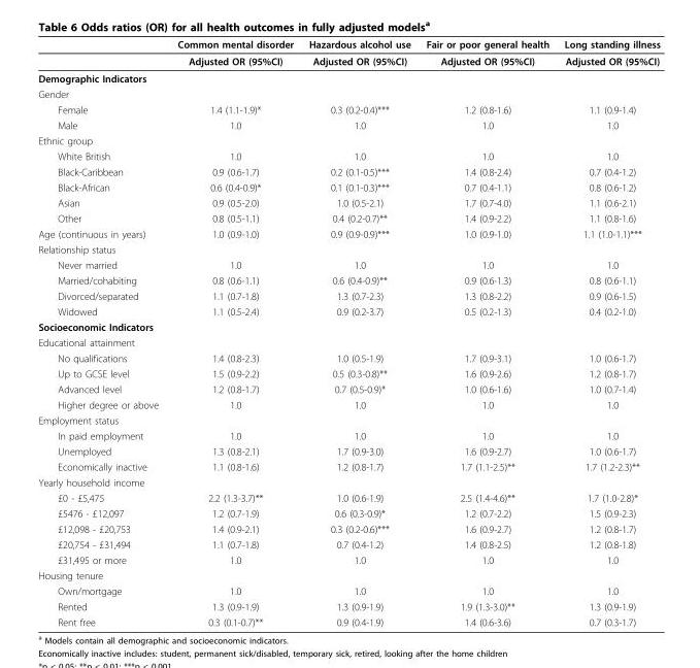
<table><thead><tr><td></td><td>Common mental disorder</td><td>Hazardous alcohol use</td><td>Fair or poor general health</td><td>Long standing illness</td></tr></thead><tbody><tr><td></td><td>Adjusted OR (95%CI)</td><td>Adjusted OR (95%CI)</td><td>Adjusted OR (95%CI)</td><td>Adjusted OR (95%CI)</td></tr><tr><td colspan="5">Demographic Indicators</td></tr><tr><td colspan="5">Gender</td></tr><tr><td>Female</td><td>1.4 (1.1-1.9)*</td><td>0.3 (0.2-0.4)***</td><td>1.2 (0.8-1.6)</td><td>1.1 (0.9-1.4)</td></tr><tr><td>Male</td><td>1.0</td><td>1.0</td><td>1.0</td><td>1.0</td></tr><tr><td colspan="5">Ethnic group</td></tr><tr><td>White British</td><td>1.0</td><td>1.0</td><td>1.0</td><td>1.0</td></tr><tr><td>Black-Caribbean</td><td>0.9 (0.6-1.7)</td><td>0.2 (0.1-0.5)***</td><td>1.4 (0.8-2.4)</td><td>0.7 (0.4-1.2)</td></tr><tr><td>Black-African</td><td>0.6 (0.4-0.9)*</td><td>0.1 (0.1-0.3)***</td><td>0.7 (0.4-1.1)</td><td>0.8 (0.6-1.2)</td></tr><tr><td>Asian</td><td>0.9 (0.5-2.0)</td><td>1.0 (0.5-2.1)</td><td>1.7 (0.7-4.0)</td><td>1.1 (0.6-2.1)</td></tr><tr><td>Other</td><td>0.8 (0.5-1.1)</td><td>0.4 (0.2-0.7)**</td><td>1.4 (0.9-2.2)</td><td>1.1 (0.8-1.6)</td></tr><tr><td>Age (continuous in years)</td><td>1.0 (0.9-1.0)</td><td>0.9 (0.9-0.9)***</td><td>1.0 (0.9-1.0)</td><td>1.1 (1.0-1.1)***</td></tr><tr><td colspan="5">Relationship status</td></tr><tr><td>Never married</td><td>1.0</td><td>1.0</td><td>1.0</td><td>1.0</td></tr><tr><td>Married/cohabiting</td><td>0.8 (0.6-1.1)</td><td>0.6 (0.4-0.9)**</td><td>0.9 (0.6-1.3)</td><td>0.8 (0.6-1.1)</td></tr><tr><td>Divorced/separated</td><td>1.1 (0.7-1.8)</td><td>1.3 (0.7-2.3)</td><td>1.3 (0.8-2.2)</td><td>0.9 (0.6-1.5)</td></tr><tr><td>Widowed</td><td>1.1 (0.5-2.4)</td><td>0.9 (0.2-3.7)</td><td>0.5 (0.2-1.3)</td><td>0.4 (0.2-1.0)</td></tr><tr><td colspan="5">Socioeconomic Indicators</td></tr><tr><td colspan="5">Educational attainment</td></tr><tr><td>No qualifications</td><td>1.4 (0.8-2.3)</td><td>1.0 (0.5-1.9)</td><td>1.7 (0.9-3.1)</td><td>1.0 (0.6-1.7)</td></tr><tr><td>Up to GCSE level</td><td>1.5 (0.9-2.2)</td><td>0.5 (0.3-0.8)**</td><td>1.6 (0.9-2.6)</td><td>1.2 (0.8-1.7)</td></tr><tr><td>Advanced level</td><td>1.2 (0.8-1.7)</td><td>0.7 (0.5-0.9)*</td><td>1.0 (0.6-1.6)</td><td>1.0 (0.7-1.4)</td></tr><tr><td>Higher degree or above</td><td>1.0</td><td>1.0</td><td>1.0</td><td>1.0</td></tr><tr><td colspan="5">Employment status</td></tr><tr><td>In paid employment</td><td>1.0</td><td>1.0</td><td>1.0</td><td>1.0</td></tr><tr><td>Unemployed</td><td>1.3 (0.8-2.1)</td><td>1.7 (0.9-3.0)</td><td>1.6 (0.9-2.7)</td><td>1.0 (0.6-1.7)</td></tr><tr><td>Economically inactive</td><td>1.1 (0.8-1.6)</td><td>1.2 (0.8-1.7)</td><td>1.7 (1.1-2.5)**</td><td>1.7 (1.2-2.3)**</td></tr><tr><td colspan="5">Yearly household income</td></tr><tr><td>£0 - £5,475</td><td>2.2 (1.3-3.7)**</td><td>1.0 (0.6-1.9)</td><td>2.5 (1.4-4.6)**</td><td>1.7 (1.0-2.8)*</td></tr><tr><td>£5476 - £12,097</td><td>1.2 (0.7-1.9)</td><td>0.6 (0.3-0.9)*</td><td>1.2 (0.7-2.2)</td><td>1.5 (0.9-2.3)</td></tr><tr><td>£12,098 - £20,753</td><td>1.4 (0.9-2.1)</td><td>0.3 (0.2-0.6)***</td><td>1.6 (0.9-2.7)</td><td>1.2 (0.8-1.7)</td></tr><tr><td>£20,754 - £31,494</td><td>1.1 (0.7-1.8)</td><td>0.7 (0.4-1.2)</td><td>1.4 (0.8-2.5)</td><td>1.2 (0.8-1.8)</td></tr><tr><td>£31,495 or more</td><td>1.0</td><td>1.0</td><td>1.0</td><td>1.0</td></tr><tr><td colspan="5">Housing tenure</td></tr><tr><td>Own/mortgage</td><td>1.0</td><td>1.0</td><td>1.0</td><td>1.0</td></tr><tr><td>Rented</td><td>1.3 (0.9-1.9)</td><td>1.3 (0.9-1.9)</td><td>1.9 (1.3-3.0)**</td><td>1.3 (0.9-1.9)</td></tr><tr><td>Rent free</td><td>0.3 (0.1-0.7)**</td><td>0.9 (0.4-1.9)</td><td>1.4 (0.6-3.6)</td><td>0.7 (0.3-1.7)</td></tr></tbody></table>